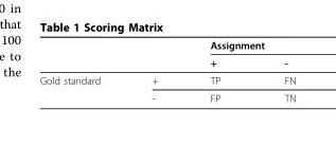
<table><thead><tr><td rowspan="2"></td><td rowspan="2"></td><td colspan="2">Assignment</td></tr><tr><td>+</td><td>-</td></tr></thead><tbody><tr><td rowspan="2">Gold standard</td><td>+</td><td>TP</td><td>FN</td></tr><tr><td>-</td><td>FP</td><td>TN</td></tr></tbody></table>